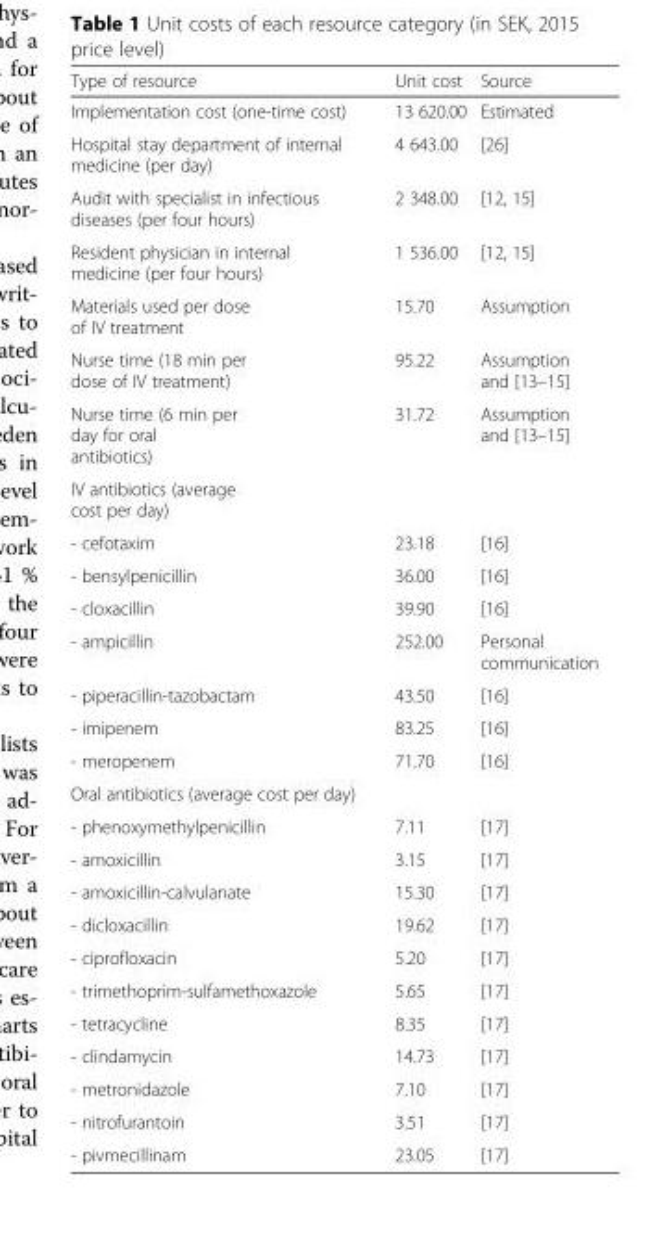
<table><thead><tr><td>Type of resource</td><td>Unit cost</td><td>Source</td></tr></thead><tbody><tr><td>Implementation cost (one-time cost)</td><td>13 620.00</td><td>Estimated</td></tr><tr><td>Hospital stay department of internal medicine (per day)</td><td>4 643.00</td><td>[26]</td></tr><tr><td>Audit with specialist in infectious diseases (per four hours)</td><td>2 348.00</td><td>[12, 15]</td></tr><tr><td>Resident physician in internal medicine (per four hours)</td><td>1 536.00</td><td>[12, 15]</td></tr><tr><td>Materials used per dose of IV treatment</td><td>15.70</td><td>Assumption</td></tr><tr><td>Nurse time (18 min per dose of IV treatment)</td><td>95.22</td><td>Assumption and [13–15]</td></tr><tr><td>Nurse time (6 min per day for oral antibiotics)</td><td>31.72</td><td>Assumption and [13–15]</td></tr><tr><td colspan="3">IV antibiotics (average cost per day)</td></tr><tr><td>- cefotaxim</td><td>23.18</td><td>[16]</td></tr><tr><td>- bensylpenicillin</td><td>36.00</td><td>[16]</td></tr><tr><td>- cloxacillin</td><td>39.90</td><td>[16]</td></tr><tr><td>- ampicillin</td><td>252.00</td><td>Personal communication</td></tr><tr><td>- piperacillin-tazobactam</td><td>43.50</td><td>[16]</td></tr><tr><td>- imipenem</td><td>83.25</td><td>[16]</td></tr><tr><td>- meropenem</td><td>71.70</td><td>[16]</td></tr><tr><td colspan="3">Oral antibiotics (average cost per day)</td></tr><tr><td>- phenoxymethylpenicillin</td><td>7.11</td><td>[17]</td></tr><tr><td>- amoxicillin</td><td>3.15</td><td>[17]</td></tr><tr><td>- amoxicillin-calvulanate</td><td>15.30</td><td>[17]</td></tr><tr><td>- dicloxacillin</td><td>19.62</td><td>[17]</td></tr><tr><td>- ciprofloxacin</td><td>5.20</td><td>[17]</td></tr><tr><td>- trimethoprim-sulfamethoxazole</td><td>5.65</td><td>[17]</td></tr><tr><td>- tetracycline</td><td>8.35</td><td>[17]</td></tr><tr><td>- clindamycin</td><td>14.73</td><td>[17]</td></tr><tr><td>- metronidazole</td><td>7.10</td><td>[17]</td></tr><tr><td>- nitrofurantoin</td><td>3.51</td><td>[17]</td></tr><tr><td>- pivmecillinam</td><td>23.05</td><td>[17]</td></tr></tbody></table>